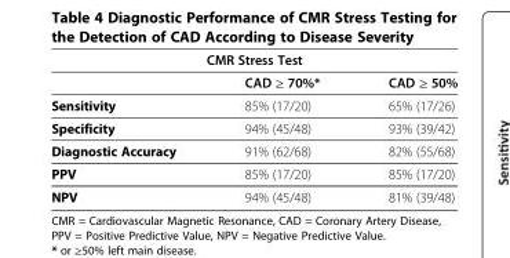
<table><thead><tr><td colspan="3">CMR Stress Test</td></tr><tr><td></td><td>CAD ≥ 70%*</td><td>CAD ≥ 50%</td></tr></thead><tbody><tr><td>Sensitivity</td><td>85% (17/20)</td><td>65% (17/26)</td></tr><tr><td>Specificity</td><td>94% (45/48)</td><td>93% (39/42)</td></tr><tr><td>Diagnostic Accuracy</td><td>91% (62/68)</td><td>82% (55/68)</td></tr><tr><td>PPV</td><td>85% (17/20)</td><td>85% (17/20)</td></tr><tr><td>NPV</td><td>94% (45/48)</td><td>81% (39/48)</td></tr></tbody></table>